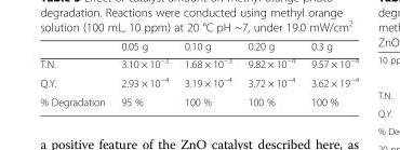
<table><thead><tr><td></td><td>0.05 g</td><td>0.10 g</td><td>0.20 g</td><td>0.3 g</td></tr></thead><tbody><tr><td>T.N.</td><td>3.10 × 10<sup>−3</sup></td><td>1.68 × 10<sup>−3</sup></td><td>9.82 × 10<sup>−4</sup></td><td>9.57 × 10<sup>−4</sup></td></tr><tr><td>Q.Y.</td><td>2.93 × 10<sup>−4</sup></td><td>3.19 × 10<sup>−4</sup></td><td>3.72 × 10<sup>−4</sup></td><td>3.62 × 19<sup>−4</sup></td></tr><tr><td>% Degradation</td><td>95 %</td><td>100 %</td><td>100 %</td><td>100 %</td></tr></tbody></table>